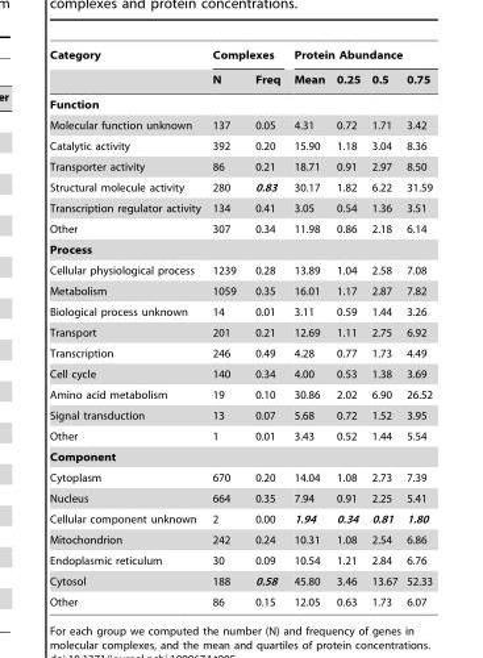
<table><thead><tr><td rowspan="2">Category</td><td colspan="2">Complexes</td><td colspan="4">Protein Abundance</td></tr><tr><td>N</td><td>Freq</td><td>Mean</td><td>0.25</td><td>0.5</td><td>0.75</td></tr></thead><tbody><tr><td colspan="7">Function</td></tr><tr><td>Molecular function unknown</td><td>137</td><td>0.05</td><td>4.31</td><td>0.72</td><td>1.71</td><td>3.42</td></tr><tr><td>Catalytic activity</td><td>392</td><td>0.20</td><td>15.90</td><td>1.18</td><td>3.04</td><td>8.36</td></tr><tr><td>Transporter activity</td><td>86</td><td>0.21</td><td>18.71</td><td>0.91</td><td>2.97</td><td>8.50</td></tr><tr><td>Structural molecule activity</td><td>280</td><td>0.83</td><td>30.17</td><td>1.82</td><td>6.22</td><td>31.59</td></tr><tr><td>Transcription regulator activity</td><td>134</td><td>0.41</td><td>3.05</td><td>0.54</td><td>1.36</td><td>3.51</td></tr><tr><td>Other</td><td>307</td><td>0.34</td><td>11.98</td><td>0.86</td><td>2.18</td><td>6.14</td></tr><tr><td colspan="7">Process</td></tr><tr><td>Cellular physiological process</td><td>1239</td><td>0.28</td><td>13.89</td><td>1.04</td><td>2.58</td><td>7.08</td></tr><tr><td>Metabolism</td><td>1059</td><td>0.35</td><td>16.01</td><td>1.17</td><td>2.87</td><td>7.82</td></tr><tr><td>Biological process unknown</td><td>14</td><td>0.01</td><td>3.11</td><td>0.59</td><td>1.44</td><td>3.26</td></tr><tr><td>Transport</td><td>201</td><td>0.21</td><td>12.69</td><td>1.11</td><td>2.75</td><td>6.92</td></tr><tr><td>Transcription</td><td>246</td><td>0.49</td><td>4.28</td><td>0.77</td><td>1.73</td><td>4.49</td></tr><tr><td>Cell cycle</td><td>140</td><td>0.34</td><td>4.00</td><td>0.53</td><td>1.38</td><td>3.69</td></tr><tr><td>Amino acid metabolism</td><td>19</td><td>0.10</td><td>30.86</td><td>2.02</td><td>6.90</td><td>26.52</td></tr><tr><td>Signal transduction</td><td>13</td><td>0.07</td><td>5.68</td><td>0.72</td><td>1.52</td><td>3.95</td></tr><tr><td>Other</td><td>1</td><td>0.01</td><td>3.43</td><td>0.52</td><td>1.44</td><td>5.54</td></tr><tr><td colspan="7">Component</td></tr><tr><td>Cytoplasm</td><td>670</td><td>0.20</td><td>14.04</td><td>1.08</td><td>2.73</td><td>7.39</td></tr><tr><td>Nucleus</td><td>664</td><td>0.35</td><td>7.94</td><td>0.91</td><td>2.25</td><td>5.41</td></tr><tr><td>Cellular component unknown</td><td>2</td><td>0.00</td><td>1.94</td><td>0.34</td><td>0.81</td><td>1.80</td></tr><tr><td>Mitochondrion</td><td>242</td><td>0.24</td><td>10.31</td><td>1.08</td><td>2.54</td><td>6.86</td></tr><tr><td>Endoplasmic reticulum</td><td>30</td><td>0.09</td><td>10.54</td><td>1.21</td><td>2.84</td><td>6.76</td></tr><tr><td>Cytosol</td><td>188</td><td>0.58</td><td>45.80</td><td>3.46</td><td>13.67</td><td>52.33</td></tr><tr><td>Other</td><td>86</td><td>0.15</td><td>12.05</td><td>0.63</td><td>1.73</td><td>6.07</td></tr></tbody></table>